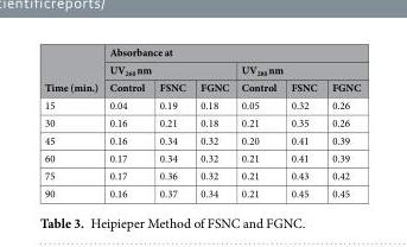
<table><thead><tr><td rowspan="3">Time (min.)</td><td colspan="6">Absorbance at</td></tr><tr><td colspan="3">UV<sub>260</sub> nm</td><td colspan="3">UV<sub>280</sub> nm</td></tr><tr><td>Control</td><td>FSNC</td><td>FGNC</td><td>Control</td><td>FSNC</td><td>FGNC</td></tr></thead><tbody><tr><td>15</td><td>0.04</td><td>0.19</td><td>0.18</td><td>0.05</td><td>0.32</td><td>0.26</td></tr><tr><td>30</td><td>0.16</td><td>0.21</td><td>0.18</td><td>0.21</td><td>0.35</td><td>0.26</td></tr><tr><td>45</td><td>0.16</td><td>0.34</td><td>0.32</td><td>0.20</td><td>0.41</td><td>0.39</td></tr><tr><td>60</td><td>0.17</td><td>0.34</td><td>0.32</td><td>0.21</td><td>0.41</td><td>0.39</td></tr><tr><td>75</td><td>0.17</td><td>0.36</td><td>0.32</td><td>0.21</td><td>0.43</td><td>0.42</td></tr><tr><td>90</td><td>0.16</td><td>0.37</td><td>0.34</td><td>0.21</td><td>0.45</td><td>0.45</td></tr></tbody></table>